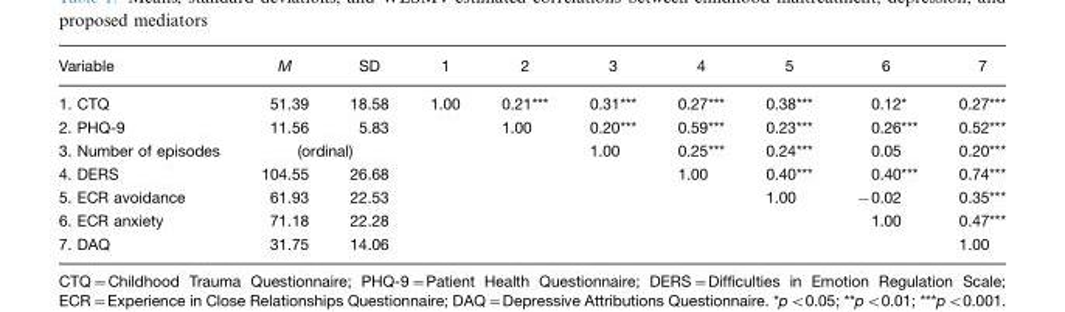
<table><thead><tr><td>Variable</td><td>M</td><td>SD</td><td>1</td><td>2</td><td>3</td><td>4</td><td>5</td><td>6</td><td>7</td></tr></thead><tbody><tr><td>1. CTQ</td><td>51.39</td><td>18.58</td><td>1.00</td><td>0.21***</td><td>0.31***</td><td>0.27***</td><td>0.38***</td><td>0.12*</td><td>0.27***</td></tr><tr><td>2. PHQ-9</td><td>11.56</td><td>5.83</td><td></td><td>1.00</td><td>0.20***</td><td>0.59***</td><td>0.23***</td><td>0.26***</td><td>0.52***</td></tr><tr><td>3. Number of episodes</td><td colspan="2">(ordinal)</td><td></td><td></td><td>1.00</td><td>0.25***</td><td>0.24***</td><td>0.05</td><td>0.20***</td></tr><tr><td>4. DERS</td><td>104.55</td><td>26.68</td><td></td><td></td><td></td><td>1.00</td><td>0.40***</td><td>0.40***</td><td>0.74***</td></tr><tr><td>5. ECR avoidance</td><td>61.93</td><td>22.53</td><td></td><td></td><td></td><td></td><td>1.00</td><td>−0.02</td><td>0.35***</td></tr><tr><td>6. ECR anxiety</td><td>71.18</td><td>22.28</td><td></td><td></td><td></td><td></td><td></td><td>1.00</td><td>0.47***</td></tr><tr><td>7. DAQ</td><td>31.75</td><td>14.06</td><td></td><td></td><td></td><td></td><td></td><td></td><td>1.00</td></tr></tbody></table>